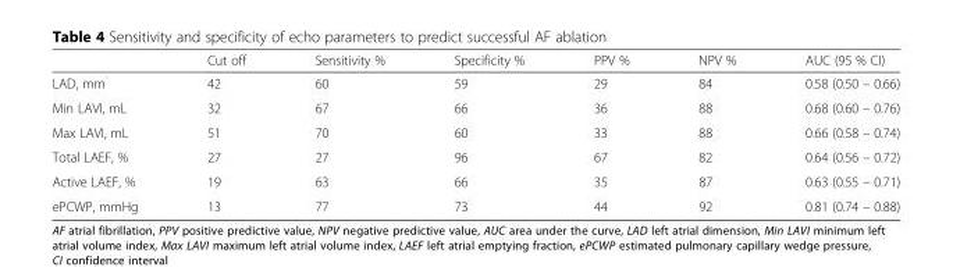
<table><thead><tr><td></td><td>Cut off</td><td>Sensitivity %</td><td>Specificity %</td><td>PPV %</td><td>NPV %</td><td>AUC (95 % CI)</td></tr></thead><tbody><tr><td>LAD, mm</td><td>42</td><td>60</td><td>59</td><td>29</td><td>84</td><td>0.58 (0.50 – 0.66)</td></tr><tr><td>Min LAVI, mL</td><td>32</td><td>67</td><td>66</td><td>36</td><td>88</td><td>0.68 (0.60 – 0.76)</td></tr><tr><td>Max LAVI, mL</td><td>51</td><td>70</td><td>60</td><td>33</td><td>88</td><td>0.66 (0.58 – 0.74)</td></tr><tr><td>Total LAEF, %</td><td>27</td><td>27</td><td>96</td><td>67</td><td>82</td><td>0.64 (0.56 – 0.72)</td></tr><tr><td>Active LAEF, %</td><td>19</td><td>63</td><td>66</td><td>35</td><td>87</td><td>0.63 (0.55 – 0.71)</td></tr><tr><td>ePCWP, mmHg</td><td>13</td><td>77</td><td>73</td><td>44</td><td>92</td><td>0.81 (0.74 – 0.88)</td></tr></tbody></table>